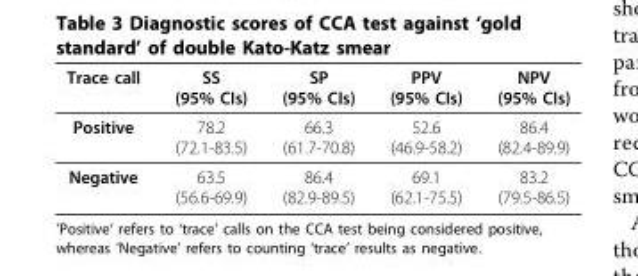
<table><thead><tr><td>Trace call</td><td>SS (95% CIs)</td><td>SP (95% CIs)</td><td>PPV (95% CIs)</td><td>NPV (95% CIs)</td></tr></thead><tbody><tr><td>Positive</td><td>78.2 (72.1-83.5)</td><td>66.3 (61.7-70.8)</td><td>52.6 (46.9-58.2)</td><td>86.4 (82.4-89.9)</td></tr><tr><td>Negative</td><td>63.5 (56.6-69.9)</td><td>86.4 (82.9-89.5)</td><td>69.1 (62.1-75.5)</td><td>83.2 (79.5-86.5)</td></tr></tbody></table>